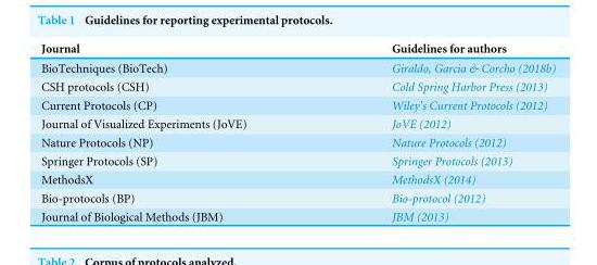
<table><thead><tr><td>Journal</td><td>Guidelines for authors</td></tr></thead><tbody><tr><td>BioTechniques (BioTech)</td><td>Giraldo, Garcia &amp; Corcho (2018b)</td></tr><tr><td>CSH protocols (CSH)</td><td>Cold Spring Harbor Press (2013)</td></tr><tr><td>Current Protocols (CP)</td><td>Wiley’s Current Protocols (2012)</td></tr><tr><td>Journal of Visualized Experiments (JoVE)</td><td>JoVE (2012)</td></tr><tr><td>Nature Protocols (NP)</td><td>Nature Protocols (2012)</td></tr><tr><td>Springer Protocols (SP)</td><td>Springer Protocols (2013)</td></tr><tr><td>MethodsX</td><td>MethodsX (2014)</td></tr><tr><td>Bio-protocols (BP)</td><td>Bio-protocol (2012)</td></tr><tr><td>Journal of Biological Methods (JBM)</td><td>JBM (2013)</td></tr></tbody></table>